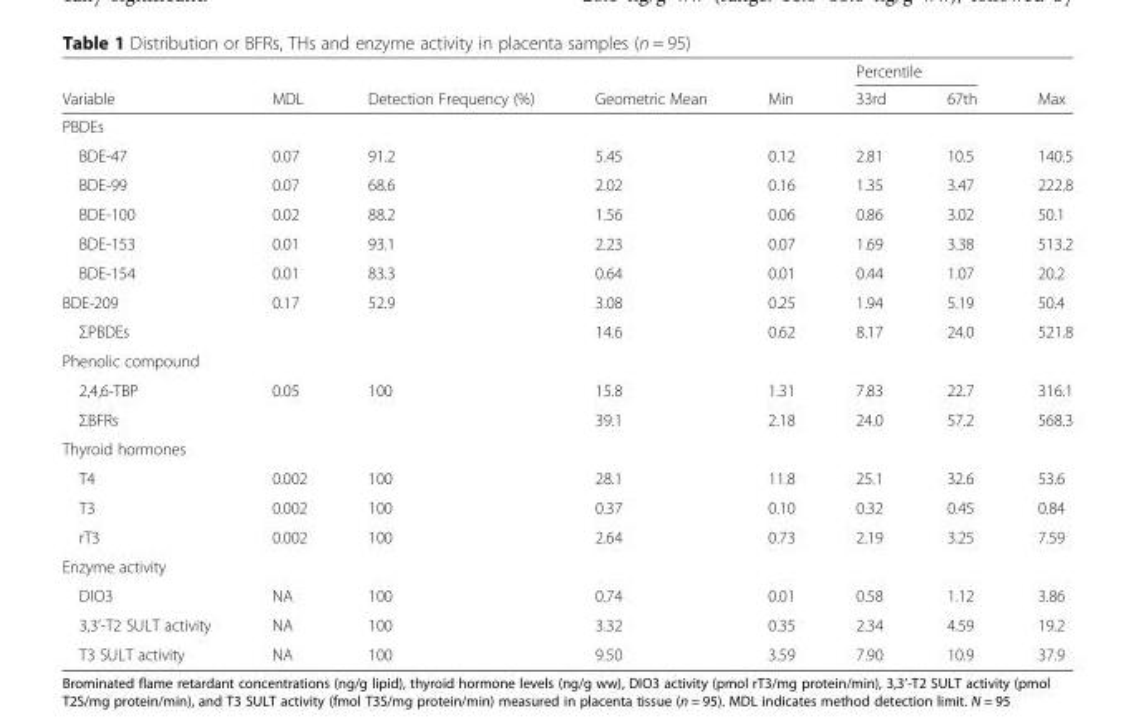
<table><thead><tr><td rowspan="2">Variable</td><td rowspan="2">MDL</td><td rowspan="2">Detection Frequency (%)</td><td rowspan="2">Geometric Mean</td><td rowspan="2">Min</td><td colspan="2">Percentile</td><td rowspan="2">Max</td></tr><tr><td>33rd</td><td>67th</td></tr></thead><tbody><tr><td colspan="8">PBDEs</td></tr><tr><td>BDE-47</td><td>0.07</td><td>91.2</td><td>5.45</td><td>0.12</td><td>2.81</td><td>10.5</td><td>140.5</td></tr><tr><td>BDE-99</td><td>0.07</td><td>68.6</td><td>2.02</td><td>0.16</td><td>1.35</td><td>3.47</td><td>222.8</td></tr><tr><td>BDE-100</td><td>0.02</td><td>88.2</td><td>1.56</td><td>0.06</td><td>0.86</td><td>3.02</td><td>50.1</td></tr><tr><td>BDE-153</td><td>0.01</td><td>93.1</td><td>2.23</td><td>0.07</td><td>1.69</td><td>3.38</td><td>513.2</td></tr><tr><td>BDE-154</td><td>0.01</td><td>83.3</td><td>0.64</td><td>0.01</td><td>0.44</td><td>1.07</td><td>20.2</td></tr><tr><td>BDE-209</td><td>0.17</td><td>52.9</td><td>3.08</td><td>0.25</td><td>1.94</td><td>5.19</td><td>50.4</td></tr><tr><td>ΣPBDEs</td><td></td><td></td><td>14.6</td><td>0.62</td><td>8.17</td><td>24.0</td><td>521.8</td></tr><tr><td colspan="8">Phenolic compound</td></tr><tr><td>2,4,6-TBP</td><td>0.05</td><td>100</td><td>15.8</td><td>1.31</td><td>7.83</td><td>22.7</td><td>316.1</td></tr><tr><td>ΣBFRs</td><td></td><td></td><td>39.1</td><td>2.18</td><td>24.0</td><td>57.2</td><td>568.3</td></tr><tr><td colspan="8">Thyroid hormones</td></tr><tr><td>T4</td><td>0.002</td><td>100</td><td>28.1</td><td>11.8</td><td>25.1</td><td>32.6</td><td>53.6</td></tr><tr><td>T3</td><td>0.002</td><td>100</td><td>0.37</td><td>0.10</td><td>0.32</td><td>0.45</td><td>0.84</td></tr><tr><td>rT3</td><td>0.002</td><td>100</td><td>2.64</td><td>0.73</td><td>2.19</td><td>3.25</td><td>7.59</td></tr><tr><td colspan="8">Enzyme activity</td></tr><tr><td>DIO3</td><td>NA</td><td>100</td><td>0.74</td><td>0.01</td><td>0.58</td><td>1.12</td><td>3.86</td></tr><tr><td>3,3’-T2 SULT activity</td><td>NA</td><td>100</td><td>3.32</td><td>0.35</td><td>2.34</td><td>4.59</td><td>19.2</td></tr><tr><td>T3 SULT activity</td><td>NA</td><td>100</td><td>9.50</td><td>3.59</td><td>7.90</td><td>10.9</td><td>37.9</td></tr></tbody></table>